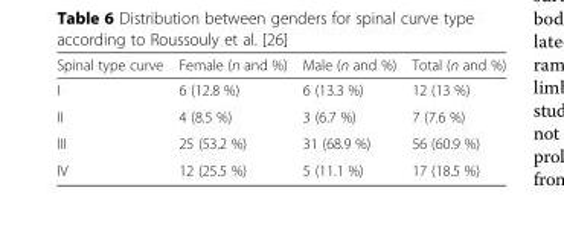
<table><thead><tr><td>Spinal type curve</td><td>Female (n and %)</td><td>Male (n and %)</td><td>Total (n and %)</td></tr></thead><tbody><tr><td>I</td><td>6 (12.8 %)</td><td>6 (13.3 %)</td><td>12 (13 %)</td></tr><tr><td>II</td><td>4 (8.5 %)</td><td>3 (6.7 %)</td><td>7 (7.6 %)</td></tr><tr><td>III</td><td>25 (53.2 %)</td><td>31 (68.9 %)</td><td>56 (60.9 %)</td></tr><tr><td>IV</td><td>12 (25.5 %)</td><td>5 (11.1 %)</td><td>17 (18.5 %)</td></tr></tbody></table>